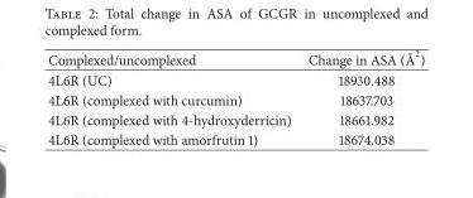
<table><thead><tr><td>Complexed/uncomplexed</td><td>Change in ASA (˚A 2)</td></tr></thead><tbody><tr><td>4L6R (UC)</td><td>18930.488</td></tr><tr><td>4L6R (complexed with curcumin)</td><td>18637.703</td></tr><tr><td>4L6R (complexed with 4-hydroxyderricin)</td><td>18661.982</td></tr><tr><td>4L6R (complexed with amorfrutin 1)</td><td>18674.038</td></tr></tbody></table>